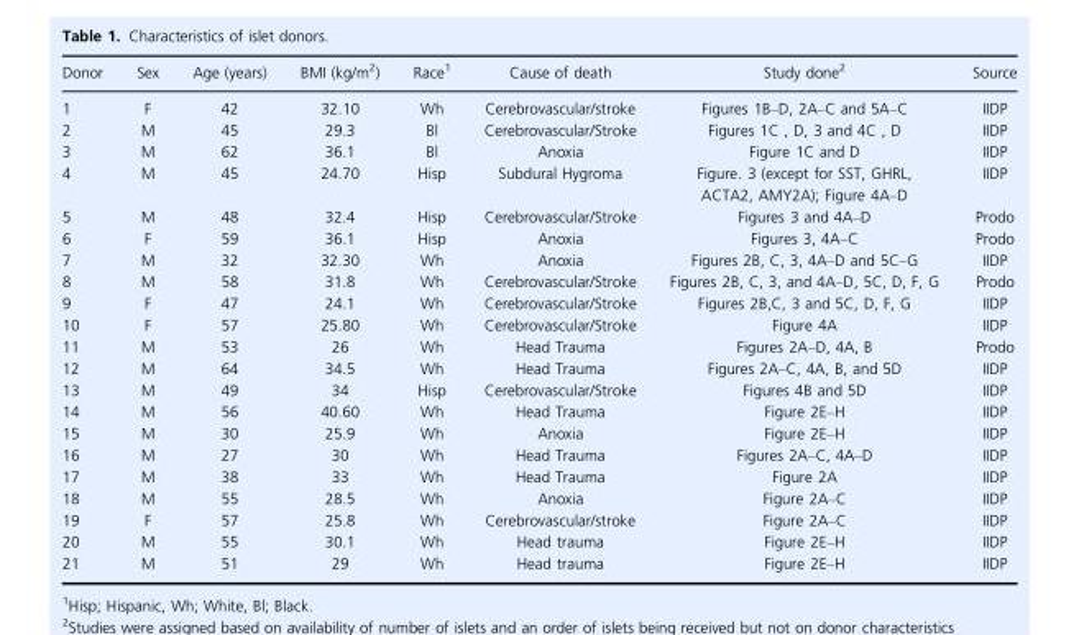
<table><thead><tr><td>Donor</td><td>Sex</td><td>Age (years)</td><td>BMI (kg/m<sup>2</sup>)</td><td>Race1</td><td>Cause of death</td><td>Study done2</td><td>Source</td></tr></thead><tbody><tr><td>1</td><td>F</td><td>42</td><td>32.10</td><td>Wh</td><td>Cerebrovascular/stroke</td><td>Figures 1B–D, 2A–C and 5A–C</td><td>IIDP</td></tr><tr><td>2</td><td>M</td><td>45</td><td>29.3</td><td>Bl</td><td>Cerebrovascular/Stroke</td><td>Figures 1C , D, 3 and 4C , D</td><td>IIDP</td></tr><tr><td>3</td><td>M</td><td>62</td><td>36.1</td><td>Bl</td><td>Anoxia</td><td>Figure 1C and D</td><td>IIDP</td></tr><tr><td>4</td><td>M</td><td>45</td><td>24.70</td><td>Hisp</td><td>Subdural Hygroma</td><td>Figure. 3 (except for SST, GHRL, ACTA2, AMY2A); Figure 4A–D</td><td>IIDP</td></tr><tr><td>5</td><td>M</td><td>48</td><td>32.4</td><td>Hisp</td><td>Cerebrovascular/Stroke</td><td>Figures 3 and 4A–D</td><td>Prodo</td></tr><tr><td>6</td><td>F</td><td>59</td><td>36.1</td><td>Hisp</td><td>Anoxia</td><td>Figures 3, 4A–C</td><td>Prodo</td></tr><tr><td>7</td><td>M</td><td>32</td><td>32.30</td><td>Wh</td><td>Anoxia</td><td>Figures 2B, C, 3, 4A–D and 5C–G</td><td>IIDP</td></tr><tr><td>8</td><td>M</td><td>58</td><td>31.8</td><td>Wh</td><td>Cerebrovascular/Stroke</td><td>Figures 2B, C, 3, and 4A–D, 5C, D, F, G</td><td>Prodo</td></tr><tr><td>9</td><td>F</td><td>47</td><td>24.1</td><td>Wh</td><td>Cerebrovascular/Stroke</td><td>Figures 2B,C, 3 and 5C, D, F, G</td><td>IIDP</td></tr><tr><td>10</td><td>F</td><td>57</td><td>25.80</td><td>Wh</td><td>Cerebrovascular/Stroke</td><td>Figure 4A</td><td>IIDP</td></tr><tr><td>11</td><td>M</td><td>53</td><td>26</td><td>Wh</td><td>Head Trauma</td><td>Figures 2A–D, 4A, B</td><td>Prodo</td></tr><tr><td>12</td><td>M</td><td>64</td><td>34.5</td><td>Wh</td><td>Head Trauma</td><td>Figures 2A–C, 4A, B, and 5D</td><td>IIDP</td></tr><tr><td>13</td><td>M</td><td>49</td><td>34</td><td>Hisp</td><td>Cerebrovascular/Stroke</td><td>Figures 4B and 5D</td><td>IIDP</td></tr><tr><td>14</td><td>M</td><td>56</td><td>40.60</td><td>Wh</td><td>Head Trauma</td><td>Figure 2E–H</td><td>IIDP</td></tr><tr><td>15</td><td>M</td><td>30</td><td>25.9</td><td>Wh</td><td>Anoxia</td><td>Figure 2E–H</td><td>IIDP</td></tr><tr><td>16</td><td>M</td><td>27</td><td>30</td><td>Wh</td><td>Head Trauma</td><td>Figures 2A–C, 4A–D</td><td>IIDP</td></tr><tr><td>17</td><td>M</td><td>38</td><td>33</td><td>Wh</td><td>Head Trauma</td><td>Figure 2A</td><td>IIDP</td></tr><tr><td>18</td><td>M</td><td>55</td><td>28.5</td><td>Wh</td><td>Anoxia</td><td>Figure 2A–C</td><td>IIDP</td></tr><tr><td>19</td><td>F</td><td>57</td><td>25.8</td><td>Wh</td><td>Cerebrovascular/stroke</td><td>Figure 2A–C</td><td>IIDP</td></tr><tr><td>20</td><td>M</td><td>55</td><td>30.1</td><td>Wh</td><td>Head trauma</td><td>Figure 2E–H</td><td>IIDP</td></tr><tr><td>21</td><td>M</td><td>51</td><td>29</td><td>Wh</td><td>Head trauma</td><td>Figure 2E–H</td><td>IIDP</td></tr></tbody></table>